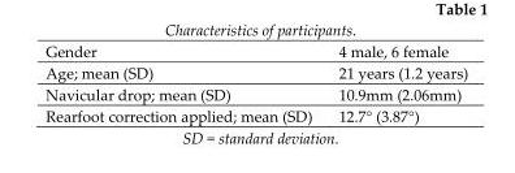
<table><tbody><tr><td>Gender</td><td>4 male, 6 female</td></tr><tr><td>Age; mean (SD)</td><td>21 years (1.2 years)</td></tr><tr><td>Navicular drop; mean (SD)</td><td>10.9mm (2.06mm)</td></tr><tr><td>Rearfoot correction applied; mean (SD)</td><td>12.7° (3.87°)</td></tr></tbody></table>